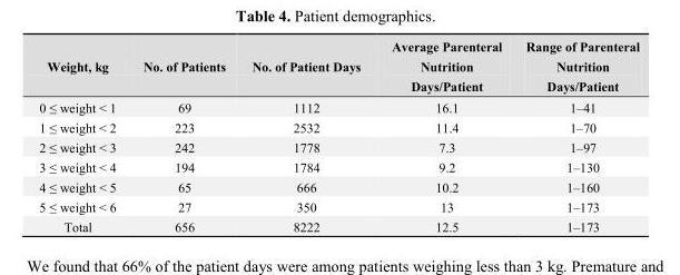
<table><thead><tr><td>Weight, kg</td><td>No. of Patients</td><td>No. of Patient Days</td><td>Average Parenteral Nutrition Days/Patient</td><td>Range of Parenteral Nutrition Days/Patient</td></tr></thead><tbody><tr><td>0 ≤ weight &lt; 1</td><td>69</td><td>1112</td><td>16.1</td><td>1–41</td></tr><tr><td>1 ≤ weight &lt; 2</td><td>223</td><td>2532</td><td>11.4</td><td>1–70</td></tr><tr><td>2 ≤ weight &lt; 3</td><td>242</td><td>1778</td><td>7.3</td><td>1–97</td></tr><tr><td>3 ≤ weight &lt; 4</td><td>194</td><td>1784</td><td>9.2</td><td>1–130</td></tr><tr><td>4 ≤ weight &lt; 5</td><td>65</td><td>666</td><td>10.2</td><td>1–160</td></tr><tr><td>5 ≤ weight &lt; 6</td><td>27</td><td>350</td><td>13</td><td>1–173</td></tr><tr><td>Total</td><td>656</td><td>8222</td><td>12.5</td><td>1–173</td></tr></tbody></table>